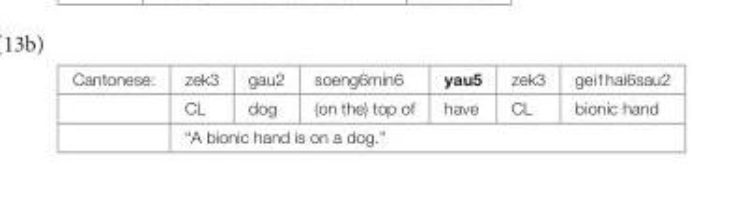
<table><tbody><tr><td rowspan="3">Cantonese:</td><td>zek3</td><td>gau2</td><td>soeng6min6</td><td>yau5</td><td>zek3</td><td>gei1hai6sau2</td></tr><tr><td>CL</td><td>dog</td><td>(on the) top of</td><td>have</td><td>CL</td><td>bionic hand</td></tr><tr><td colspan="6">“A bionic hand is on a dog.”</td></tr></tbody></table>